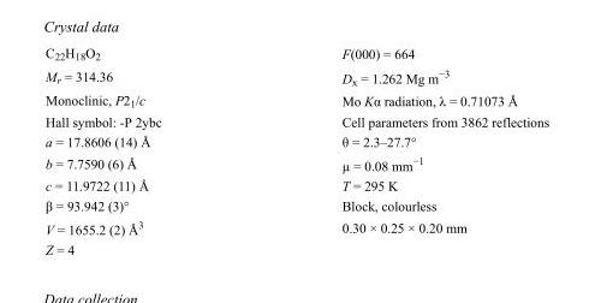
<table><tbody><tr><td>C<sub>22</sub>H<sub>18</sub>O<sub>2</sub></td><td>F(000) = 664</td></tr><tr><td>M<sub>r</sub> = 314.36</td><td>D<sub>x</sub> = 1.262 Mg m<sup>−3</sup></td></tr><tr><td>Monoclinic, P2<sub>1</sub>/c</td><td>Mo Kα radiation, λ = 0.71073 Å</td></tr><tr><td>Hall symbol: -P 2ybc</td><td>Cell parameters from 3862 reflections</td></tr><tr><td>a = 17.8606 (14) Å</td><td>θ = 2.3–27.7°</td></tr><tr><td>b = 7.7590 (6) Å</td><td>µ = 0.08 mm<sup>−1</sup></td></tr><tr><td>c = 11.9722 (11) Å</td><td>T = 295 K</td></tr><tr><td>β = 93.942 (3)°</td><td>Block, colourless</td></tr><tr><td>V = 1655.2 (2) Å<sup>3</sup></td><td>0.30 × 0.25 × 0.20 mm</td></tr><tr><td>Z = 4</td><td></td></tr></tbody></table>